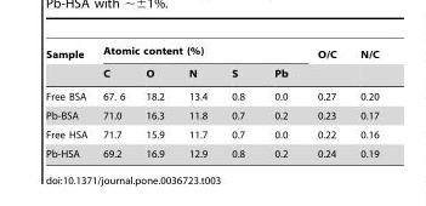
<table><thead><tr><td rowspan="2">Sample</td><td colspan="5">Atomic content (%)</td><td rowspan="2">O/C</td><td rowspan="2">N/C</td></tr><tr><td>C</td><td>O</td><td>N</td><td>S</td><td>Pb</td></tr></thead><tbody><tr><td>Free BSA</td><td>67. 6</td><td>18.2</td><td>13.4</td><td>0.8</td><td>0.0</td><td>0.27</td><td>0.20</td></tr><tr><td>Pb-BSA</td><td>71.0</td><td>16.3</td><td>11.8</td><td>0.7</td><td>0.2</td><td>0.23</td><td>0.17</td></tr><tr><td>Free HSA</td><td>71.7</td><td>15.9</td><td>11.7</td><td>0.7</td><td>0.0</td><td>0.22</td><td>0.16</td></tr><tr><td>Pb-HSA</td><td>69.2</td><td>16.9</td><td>12.9</td><td>0.8</td><td>0.2</td><td>0.24</td><td>0.19</td></tr></tbody></table>